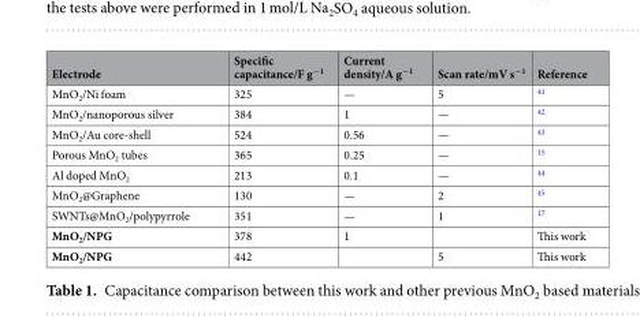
<table><thead><tr><td>Electrode</td><td>Specific capacitance/F g<sup>−1</sup></td><td>Current density/A g<sup>−1</sup></td><td>Scan rate/mV s<sup>−1</sup></td><td>Reference</td></tr></thead><tbody><tr><td>MnO<sub>2</sub>/Ni foam</td><td>325</td><td>—</td><td>5</td><td><sup>41</sup></td></tr><tr><td>MnO<sub>2</sub>/nanoporous silver</td><td>384</td><td>1</td><td>—</td><td><sup>42</sup></td></tr><tr><td>MnO<sub>2</sub>/Au core-shell</td><td>524</td><td>0.56</td><td>—</td><td><sup>43</sup></td></tr><tr><td>Porous MnO<sub>2</sub> tubes</td><td>365</td><td>0.25</td><td>—</td><td><sup>15</sup></td></tr><tr><td>Al doped MnO<sub>2</sub></td><td>213</td><td>0.1</td><td>—</td><td><sup>44</sup></td></tr><tr><td>MnO<sub>2</sub>@Graphene</td><td>130</td><td>—</td><td>2</td><td><sup>45</sup></td></tr><tr><td>SWNTs@MnO<sub>2</sub>/polypyrrole</td><td>351</td><td>—</td><td>1</td><td><sup>17</sup></td></tr><tr><td>MnO<sub>2</sub>/NPG</td><td>378</td><td>1</td><td></td><td>This work</td></tr><tr><td>MnO<sub>2</sub>/NPG</td><td>442</td><td></td><td>5</td><td>This work</td></tr></tbody></table>